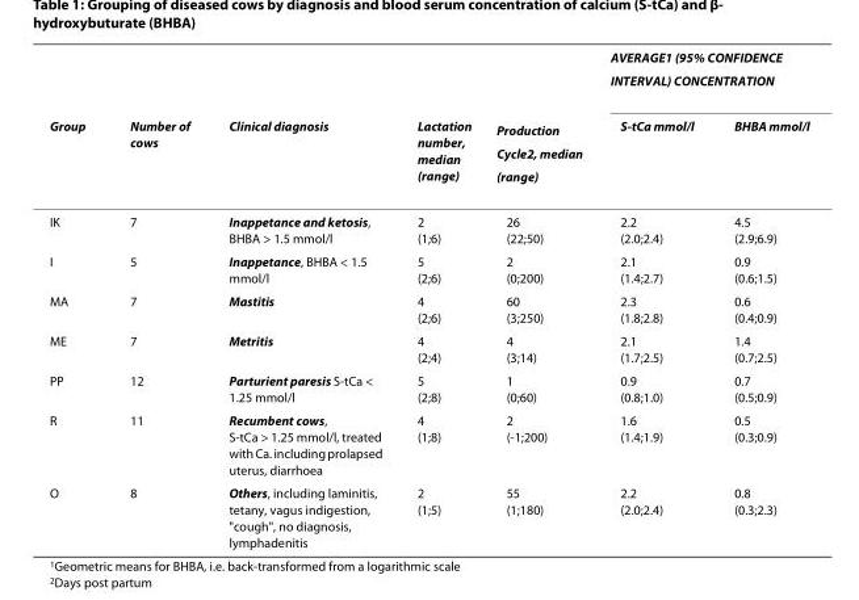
<table><thead><tr><td rowspan="2">Group</td><td rowspan="2">Number of cows</td><td rowspan="2">Clinical diagnosis</td><td rowspan="2">Lactation number, median (range)</td><td rowspan="2">Production Cycle<sup>2</sup>, median (range)</td><td colspan="2">AVERAGE<sup>1</sup> (95% CONFIDENCE INTERVAL) CONCENTRATION</td></tr><tr><td>S-tCa mmol/l</td><td>BHBA mmol/l</td></tr></thead><tbody><tr><td>IK</td><td>7</td><td>Inappetance and ketosis, BHBA &gt; 1.5 mmol/l</td><td>2 (1;6)</td><td>26 (22;50)</td><td>2.2 (2.0;2.4)</td><td>4.5 (2.9;6.9)</td></tr><tr><td>I</td><td>5</td><td>Inappetance, BHBA &lt; 1.5 mmol/l</td><td>5 (2;6)</td><td>2 (0;200)</td><td>2.1 (1.4;2.7)</td><td>0.9 (0.6;1.5)</td></tr><tr><td>MA</td><td>7</td><td>Mastitis</td><td>4 (2;6)</td><td>60 (3;250)</td><td>2.3 (1.8;2.8)</td><td>0.6 (0.4;0.9)</td></tr><tr><td>ME</td><td>7</td><td>Metritis</td><td>4 (2;4)</td><td>4 (3;14)</td><td>2.1 (1.7;2.5)</td><td>1.4 (0.7;2.5)</td></tr><tr><td>PP</td><td>12</td><td>Parturient paresis S-tCa &lt; 1.25 mmol/l</td><td>5 (2;8)</td><td>1 (0;60)</td><td>0.9 (0.8;1.0)</td><td>0.7 (0.5;0.9)</td></tr><tr><td>R</td><td>11</td><td>Recumbent cows, S-tCa &gt; 1.25 mmol/l, treated with Ca. including prolapsed uterus, diarrhoea</td><td>4 (1;8)</td><td>2 (-1;200)</td><td>1.6 (1.4;1.9)</td><td>0.5 (0.3;0.9)</td></tr><tr><td>O</td><td>8</td><td>Others, including laminitis, tetany, vagus indigestion, &quot;cough&quot;, no diagnosis, lymphadenitis</td><td>2 (1;5)</td><td>55 (1;180)</td><td>2.2 (2.0;2.4)</td><td>0.8 (0.3;2.3)</td></tr></tbody></table>